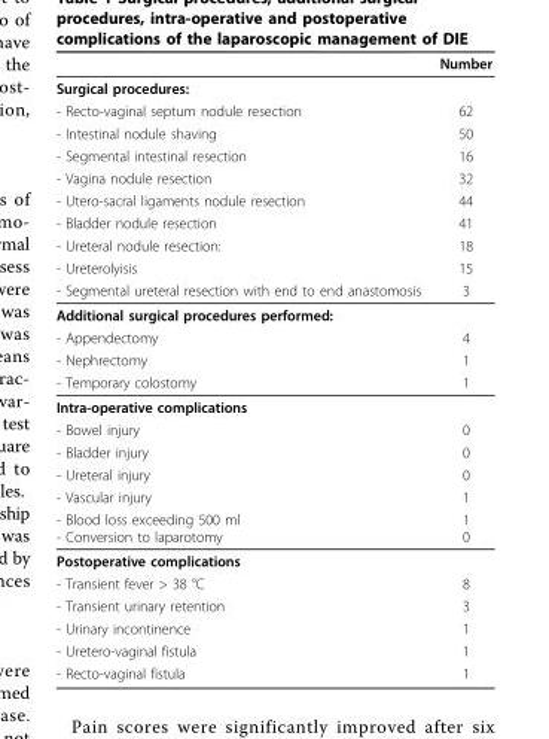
<table><thead><tr><td></td><td>Number</td></tr></thead><tbody><tr><td colspan="2">Surgical procedures:</td></tr><tr><td>- Recto-vaginal septum nodule resection</td><td>62</td></tr><tr><td>- Intestinal nodule shaving</td><td>50</td></tr><tr><td>- Segmental intestinal resection</td><td>16</td></tr><tr><td>- Vagina nodule resection</td><td>32</td></tr><tr><td>- Utero-sacral ligaments nodule resection</td><td>44</td></tr><tr><td>- Bladder nodule resection</td><td>41</td></tr><tr><td>- Ureteral nodule resection:</td><td>18</td></tr><tr><td>- Ureterolyisis</td><td>15</td></tr><tr><td>- Segmental ureteral resection with end to end anastomosis</td><td>3</td></tr><tr><td colspan="2">Additional surgical procedures performed:</td></tr><tr><td>- Appendectomy</td><td>4</td></tr><tr><td>- Nephrectomy</td><td>1</td></tr><tr><td>- Temporary colostomy</td><td>1</td></tr><tr><td colspan="2">Intra-operative complications</td></tr><tr><td>- Bowel injury</td><td>0</td></tr><tr><td>- Bladder injury</td><td>0</td></tr><tr><td>- Ureteral injury</td><td>0</td></tr><tr><td>- Vascular injury</td><td>1</td></tr><tr><td>- Blood loss exceeding 500 ml - Conversion to laparotomy</td><td>1 0</td></tr><tr><td colspan="2">Postoperative complications</td></tr><tr><td>- Transient fever &gt; 38 °C</td><td>8</td></tr><tr><td>- Transient urinary retention</td><td>3</td></tr><tr><td>- Urinary incontinence</td><td>1</td></tr><tr><td>- Uretero-vaginal fistula</td><td>1</td></tr><tr><td>- Recto-vaginal fistula</td><td>1</td></tr></tbody></table>